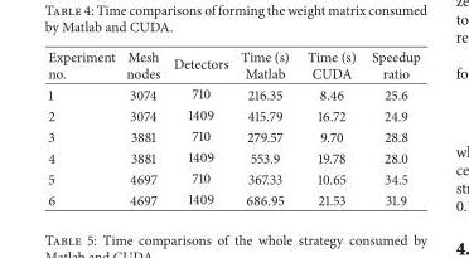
<table><thead><tr><td>Experiment no.</td><td>Mesh nodes</td><td>Detectors</td><td>Time (s) Matlab</td><td>Time (s) CUDA</td><td>Speedup ratio</td></tr></thead><tbody><tr><td>1</td><td>3074</td><td>710</td><td>216.35</td><td>8.46</td><td>25.6</td></tr><tr><td>2</td><td>3074</td><td>1409</td><td>415.79</td><td>16.72</td><td>24.9</td></tr><tr><td>3</td><td>3881</td><td>710</td><td>279.57</td><td>9.70</td><td>28.8</td></tr><tr><td>4</td><td>3881</td><td>1409</td><td>553.9</td><td>19.78</td><td>28.0</td></tr><tr><td>5</td><td>4697</td><td>710</td><td>367.33</td><td>10.65</td><td>34.5</td></tr><tr><td>6</td><td>4697</td><td>1409</td><td>686.95</td><td>21.53</td><td>31.9</td></tr></tbody></table>